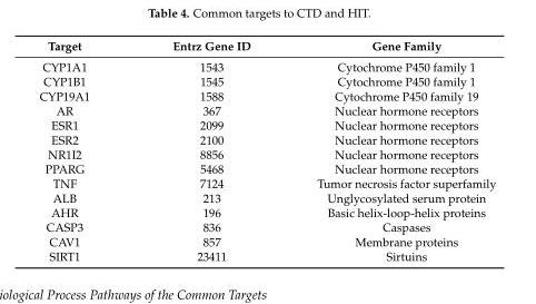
<table><thead><tr><td>Target</td><td>Entrz Gene ID</td><td>Gene Family</td></tr></thead><tbody><tr><td>CYP1A1</td><td>1543</td><td>Cytochrome P450 family 1</td></tr><tr><td>CYP1B1</td><td>1545</td><td>Cytochrome P450 family 1</td></tr><tr><td>CYP19A1</td><td>1588</td><td>Cytochrome P450 family 19</td></tr><tr><td>AR</td><td>367</td><td>Nuclear hormone receptors</td></tr><tr><td>ESR1</td><td>2099</td><td>Nuclear hormone receptors</td></tr><tr><td>ESR2</td><td>2100</td><td>Nuclear hormone receptors</td></tr><tr><td>NR1I2</td><td>8856</td><td>Nuclear hormone receptors</td></tr><tr><td>PPARG</td><td>5468</td><td>Nuclear hormone receptors</td></tr><tr><td>TNF</td><td>7124</td><td>Tumor necrosis factor superfamily</td></tr><tr><td>ALB</td><td>213</td><td>Unglycosylated serum protein</td></tr><tr><td>AHR</td><td>196</td><td>Basic helix-loop-helix proteins</td></tr><tr><td>CASP3</td><td>836</td><td>Caspases</td></tr><tr><td>CAV1</td><td>857</td><td>Membrane proteins</td></tr><tr><td>SIRT1</td><td>23411</td><td>Sirtuins</td></tr></tbody></table>